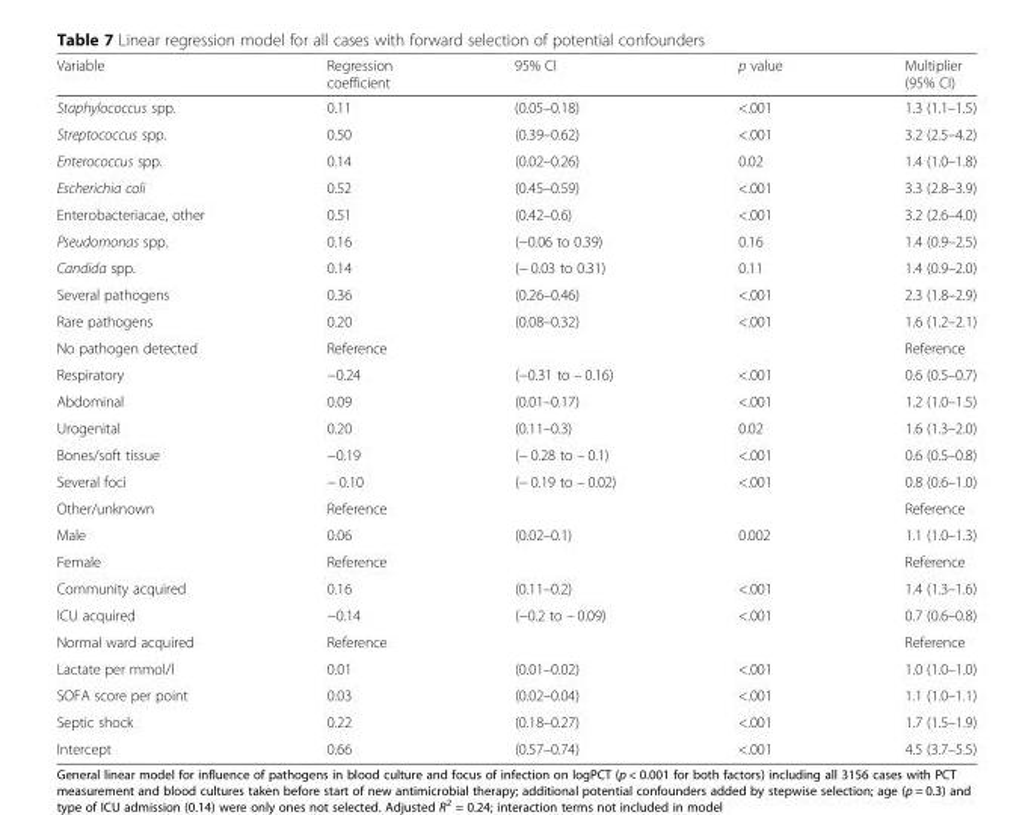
<table><thead><tr><td>Variable</td><td>Regression coefficient</td><td>95% CI</td><td>p value</td><td>Multiplier (95% CI)</td></tr></thead><tbody><tr><td>Staphylococcus spp.</td><td>0.11</td><td>(0.05–0.18)</td><td>&lt;.001</td><td>1.3 (1.1–1.5)</td></tr><tr><td>Streptococcus spp.</td><td>0.50</td><td>(0.39–0.62)</td><td>&lt;.001</td><td>3.2 (2.5–4.2)</td></tr><tr><td>Enterococcus spp.</td><td>0.14</td><td>(0.02–0.26)</td><td>0.02</td><td>1.4 (1.0–1.8)</td></tr><tr><td>Escherichia coli</td><td>0.52</td><td>(0.45–0.59)</td><td>&lt;.001</td><td>3.3 (2.8–3.9)</td></tr><tr><td>Enterobacteriacae, other</td><td>0.51</td><td>(0.42–0.6)</td><td>&lt;.001</td><td>3.2 (2.6–4.0)</td></tr><tr><td>Pseudomonas spp.</td><td>0.16</td><td>(−0.06 to 0.39)</td><td>0.16</td><td>1.4 (0.9–2.5)</td></tr><tr><td>Candida spp.</td><td>0.14</td><td>(− 0.03 to 0.31)</td><td>0.11</td><td>1.4 (0.9–2.0)</td></tr><tr><td>Several pathogens</td><td>0.36</td><td>(0.26–0.46)</td><td>&lt;.001</td><td>2.3 (1.8–2.9)</td></tr><tr><td>Rare pathogens</td><td>0.20</td><td>(0.08–0.32)</td><td>&lt;.001</td><td>1.6 (1.2–2.1)</td></tr><tr><td>No pathogen detected</td><td>Reference</td><td></td><td></td><td>Reference</td></tr><tr><td>Respiratory</td><td>−0.24</td><td>(−0.31 to – 0.16)</td><td>&lt;.001</td><td>0.6 (0.5–0.7)</td></tr><tr><td>Abdominal</td><td>0.09</td><td>(0.01–0.17)</td><td>&lt;.001</td><td>1.2 (1.0–1.5)</td></tr><tr><td>Urogenital</td><td>0.20</td><td>(0.11–0.3)</td><td>0.02</td><td>1.6 (1.3–2.0)</td></tr><tr><td>Bones/soft tissue</td><td>−0.19</td><td>(− 0.28 to – 0.1)</td><td>&lt;.001</td><td>0.6 (0.5–0.8)</td></tr><tr><td>Several foci</td><td>− 0.10</td><td>(− 0.19 to – 0.02)</td><td>&lt;.001</td><td>0.8 (0.6–1.0)</td></tr><tr><td>Other/unknown</td><td>Reference</td><td></td><td></td><td>Reference</td></tr><tr><td>Male</td><td>0.06</td><td>(0.02–0.1)</td><td>0.002</td><td>1.1 (1.0–1.3)</td></tr><tr><td>Female</td><td>Reference</td><td></td><td></td><td>Reference</td></tr><tr><td>Community acquired</td><td>0.16</td><td>(0.11–0.2)</td><td>&lt;.001</td><td>1.4 (1.3–1.6)</td></tr><tr><td>ICU acquired</td><td>−0.14</td><td>(−0.2 to – 0.09)</td><td>&lt;.001</td><td>0.7 (0.6–0.8)</td></tr><tr><td>Normal ward acquired</td><td>Reference</td><td></td><td></td><td>Reference</td></tr><tr><td>Lactate per mmol/l</td><td>0.01</td><td>(0.01–0.02)</td><td>&lt;.001</td><td>1.0 (1.0–1.0)</td></tr><tr><td>SOFA score per point</td><td>0.03</td><td>(0.02–0.04)</td><td>&lt;.001</td><td>1.1 (1.0–1.1)</td></tr><tr><td>Septic shock</td><td>0.22</td><td>(0.18–0.27)</td><td>&lt;.001</td><td>1.7 (1.5–1.9)</td></tr><tr><td>Intercept</td><td>0.66</td><td>(0.57–0.74)</td><td>&lt;.001</td><td>4.5 (3.7–5.5)</td></tr></tbody></table>